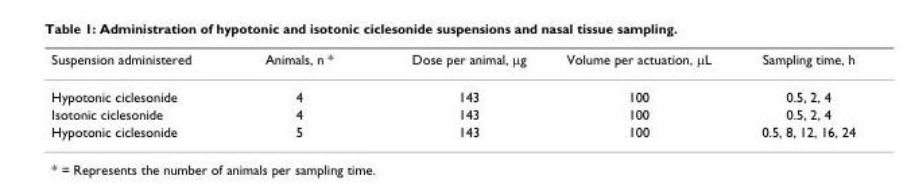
<table><thead><tr><td>Suspension administered</td><td>Animals, n *</td><td>Dose per animal, μg</td><td>Volume per actuation, μL</td><td>Sampling time, h</td></tr></thead><tbody><tr><td>Hypotonic ciclesonide</td><td>4</td><td>143</td><td>100</td><td>0.5, 2, 4</td></tr><tr><td>Isotonic ciclesonide</td><td>4</td><td>143</td><td>100</td><td>0.5, 2, 4</td></tr><tr><td>Hypotonic ciclesonide</td><td>5</td><td>143</td><td>100</td><td>0.5, 8, 12, 16, 24</td></tr></tbody></table>